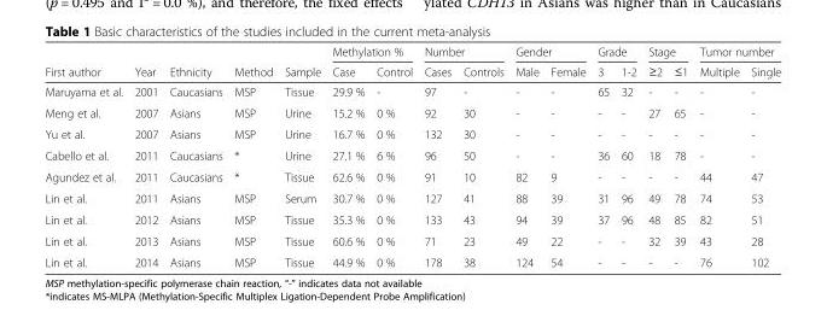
<table><thead><tr><td rowspan="2">First author</td><td rowspan="2">Year</td><td rowspan="2">Ethnicity</td><td rowspan="2">Method</td><td rowspan="2">Sample</td><td colspan="2">Methylation %</td><td colspan="2">Number</td><td colspan="2">Gender</td><td colspan="2">Grade</td><td colspan="2">Stage</td><td colspan="2">Tumor number</td></tr><tr><td>Case</td><td>Control</td><td>Cases</td><td>Controls</td><td>Male</td><td>Female</td><td>3</td><td>1-2</td><td>≥2</td><td>≤1</td><td>Multiple</td><td>Single</td></tr></thead><tbody><tr><td>Maruyama et al.</td><td>2001</td><td>Caucasians</td><td>MSP</td><td>Tissue</td><td>29.9 %</td><td>-</td><td>97</td><td>-</td><td>-</td><td>-</td><td>65</td><td>32</td><td>-</td><td>-</td><td>-</td><td>-</td></tr><tr><td>Meng et al.</td><td>2007</td><td>Asians</td><td>MSP</td><td>Urine</td><td>15.2 %</td><td>0 %</td><td>92</td><td>30</td><td>-</td><td>-</td><td>-</td><td>-</td><td>27</td><td>65</td><td>-</td><td>-</td></tr><tr><td>Yu et al.</td><td>2007</td><td>Asians</td><td>MSP</td><td>Urine</td><td>16.7 %</td><td>0 %</td><td>132</td><td>30</td><td>-</td><td>-</td><td>-</td><td>-</td><td>-</td><td>-</td><td>-</td><td>-</td></tr><tr><td>Cabello et al.</td><td>2011</td><td>Caucasians</td><td>*</td><td>Urine</td><td>27.1 %</td><td>6 %</td><td>96</td><td>50</td><td>-</td><td>-</td><td>36</td><td>60</td><td>18</td><td>78</td><td>-</td><td>-</td></tr><tr><td>Agundez et al.</td><td>2011</td><td>Caucasians</td><td>*</td><td>Tissue</td><td>62.6 %</td><td>0 %</td><td>91</td><td>10</td><td>82</td><td>9</td><td>-</td><td>-</td><td>-</td><td>-</td><td>44</td><td>47</td></tr><tr><td>Lin et al.</td><td>2011</td><td>Asians</td><td>MSP</td><td>Serum</td><td>30.7 %</td><td>0 %</td><td>127</td><td>41</td><td>88</td><td>39</td><td>31</td><td>96</td><td>49</td><td>78</td><td>74</td><td>53</td></tr><tr><td>Lin et al.</td><td>2012</td><td>Asians</td><td>MSP</td><td>Tissue</td><td>35.3 %</td><td>0 %</td><td>133</td><td>43</td><td>94</td><td>39</td><td>37</td><td>96</td><td>48</td><td>85</td><td>82</td><td>51</td></tr><tr><td>Lin et al.</td><td>2013</td><td>Asians</td><td>MSP</td><td>Tissue</td><td>60.6 %</td><td>0 %</td><td>71</td><td>23</td><td>49</td><td>22</td><td>-</td><td>-</td><td>32</td><td>39</td><td>43</td><td>28</td></tr><tr><td>Lin et al.</td><td>2014</td><td>Asians</td><td>MSP</td><td>Tissue</td><td>44.9 %</td><td>0 %</td><td>178</td><td>38</td><td>124</td><td>54</td><td>-</td><td>-</td><td>-</td><td>-</td><td>76</td><td>102</td></tr></tbody></table>